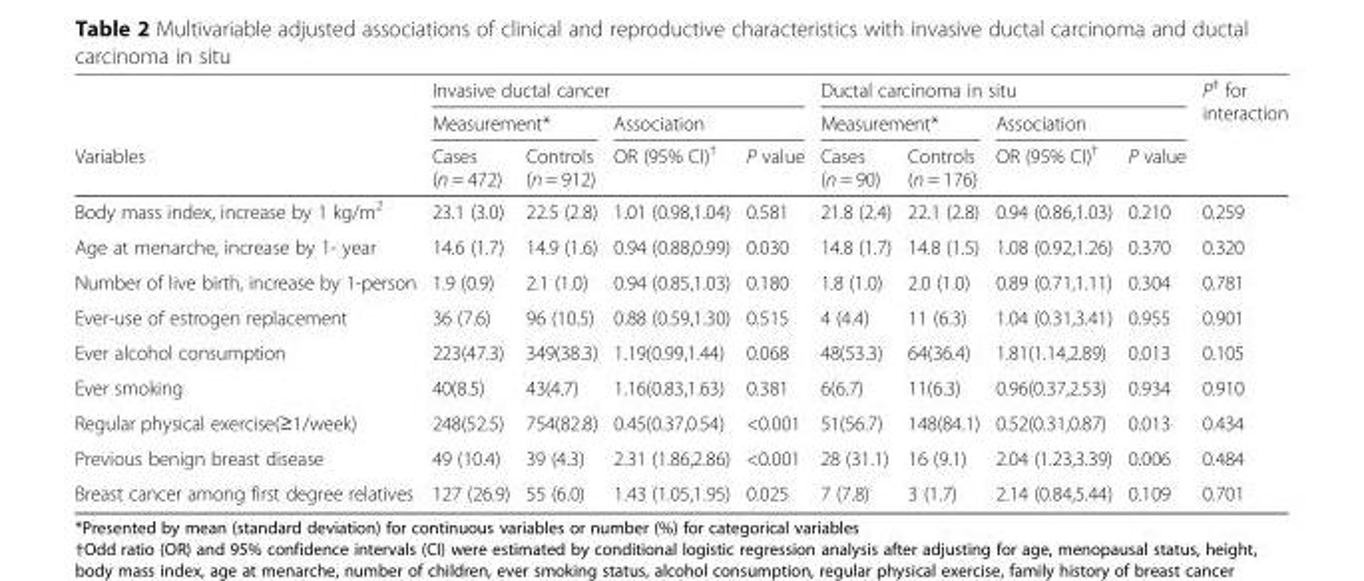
<table><thead><tr><td rowspan="3">Variables</td><td colspan="4">Invasive ductal cancer</td><td colspan="4">Ductal carcinoma in situ</td><td rowspan="3">P<sup>‡</sup> for interaction</td></tr><tr><td colspan="2">Measurement*</td><td colspan="2">Association</td><td colspan="2">Measurement*</td><td colspan="2">Association</td></tr><tr><td>Cases (n = 472)</td><td>Controls (n = 912)</td><td>OR (95% CI)<sup>†</sup></td><td>P value</td><td>Cases (n = 90)</td><td>Controls (n = 176)</td><td>OR (95% CI)<sup>†</sup></td><td>P value</td></tr></thead><tbody><tr><td>Body mass index, increase by 1 kg/m<sup>2</sup></td><td>23.1 (3.0)</td><td>22.5 (2.8)</td><td>1.01 (0.98,1.04)</td><td>0.581</td><td>21.8 (2.4)</td><td>22.1 (2.8)</td><td>0.94 (0.86,1.03)</td><td>0.210</td><td>0.259</td></tr><tr><td>Age at menarche, increase by 1- year</td><td>14.6 (1.7)</td><td>14.9 (1.6)</td><td>0.94 (0.88,0.99)</td><td>0.030</td><td>14.8 (1.7)</td><td>14.8 (1.5)</td><td>1.08 (0.92,1.26)</td><td>0.370</td><td>0.320</td></tr><tr><td>Number of live birth, increase by 1-person</td><td>1.9 (0.9)</td><td>2.1 (1.0)</td><td>0.94 (0.85,1.03)</td><td>0.180</td><td>1.8 (1.0)</td><td>2.0 (1.0)</td><td>0.89 (0.71,1.11)</td><td>0.304</td><td>0.781</td></tr><tr><td>Ever-use of estrogen replacement</td><td>36 (7.6)</td><td>96 (10.5)</td><td>0.88 (0.59,1.30)</td><td>0.515</td><td>4 (4.4)</td><td>11 (6.3)</td><td>1.04 (0.31,3.41)</td><td>0.955</td><td>0.901</td></tr><tr><td>Ever alcohol consumption</td><td>223(47.3)</td><td>349(38.3)</td><td>1.19(0.99,1.44)</td><td>0.068</td><td>48(53.3)</td><td>64(36.4)</td><td>1.81(1.14,2.89)</td><td>0.013</td><td>0.105</td></tr><tr><td>Ever smoking</td><td>40(8.5)</td><td>43(4.7)</td><td>1.16(0.83,1.63)</td><td>0.381</td><td>6(6.7)</td><td>11(6.3)</td><td>0.96(0.37,2.53)</td><td>0.934</td><td>0.910</td></tr><tr><td>Regular physical exercise(≥1/week)</td><td>248(52.5)</td><td>754(82.8)</td><td>0.45(0.37,0.54)</td><td>&lt;0.001</td><td>51(56.7)</td><td>148(84.1)</td><td>0.52(0.31,0.87)</td><td>0.013</td><td>0.434</td></tr><tr><td>Previous benign breast disease</td><td>49 (10.4)</td><td>39 (4.3)</td><td>2.31 (1.86,2.86)</td><td>&lt;0.001</td><td>28 (31.1)</td><td>16 (9.1)</td><td>2.04 (1.23,3.39)</td><td>0.006</td><td>0.484</td></tr><tr><td>Breast cancer among first degree relatives</td><td>127 (26.9)</td><td>55 (6.0)</td><td>1.43 (1.05,1.95)</td><td>0.025</td><td>7 (7.8)</td><td>3 (1.7)</td><td>2.14 (0.84,5.44)</td><td>0.109</td><td>0.701</td></tr></tbody></table>